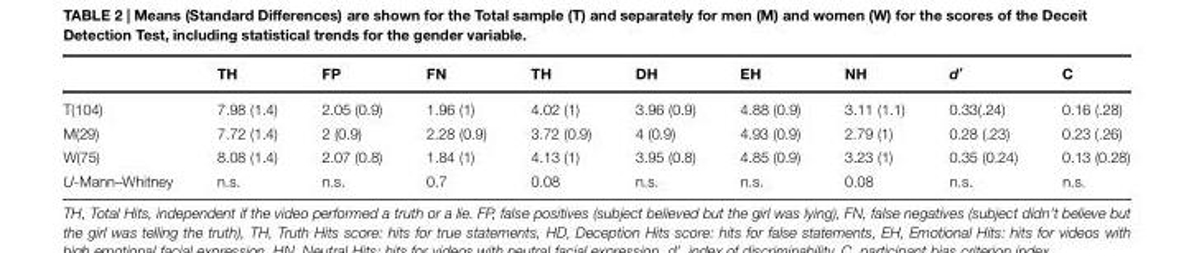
<table><thead><tr><td></td><td>TH</td><td>FP</td><td>FN</td><td>TH</td><td>DH</td><td>EH</td><td>NH</td><td>d′</td><td>C</td></tr></thead><tbody><tr><td>T(104)</td><td>7.98 (1.4)</td><td>2.05 (0.9)</td><td>1.96 (1)</td><td>4.02 (1)</td><td>3.96 (0.9)</td><td>4.88 (0.9)</td><td>3.11 (1.1)</td><td>0.33(.24)</td><td>0.16 (.28)</td></tr><tr><td>M(29)</td><td>7.72 (1.4)</td><td>2 (0.9)</td><td>2.28 (0.9)</td><td>3.72 (0.9)</td><td>4 (0.9)</td><td>4.93 (0.9)</td><td>2.79 (1)</td><td>0.28 (.23)</td><td>0.23 (.26)</td></tr><tr><td>W(75)</td><td>8.08 (1.4)</td><td>2.07 (0.8)</td><td>1.84 (1)</td><td>4.13 (1)</td><td>3.95 (0.8)</td><td>4.85 (0.9)</td><td>3.23 (1)</td><td>0.35 (0.24)</td><td>0.13 (0.28)</td></tr><tr><td>U-Mann–Whitney</td><td>n.s.</td><td>n.s.</td><td>0.7</td><td>0.08</td><td>n.s.</td><td>n.s.</td><td>0.08</td><td>n.s.</td><td>n.s.</td></tr></tbody></table>